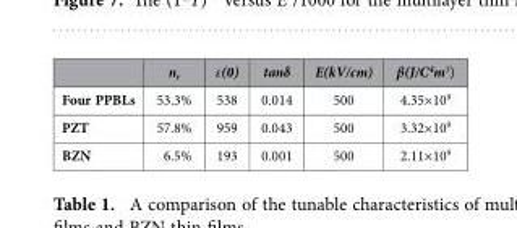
<table><thead><tr><td></td><td>n<sub>r</sub></td><td>ε(0)</td><td>tanδ</td><td>E(kV/cm)</td><td>β(J/C<sup>4</sup>m<sup>5</sup>)</td></tr></thead><tbody><tr><td>Four PPBLs</td><td>53.3%</td><td>538</td><td>0.014</td><td>500</td><td>4.35×10<sup>9</sup></td></tr><tr><td>PZT</td><td>57.8%</td><td>959</td><td>0.043</td><td>500</td><td>3.32×10<sup>9</sup></td></tr><tr><td>BZN</td><td>6.5%</td><td>193</td><td>0.001</td><td>500</td><td>2.11×10<sup>9</sup></td></tr></tbody></table>